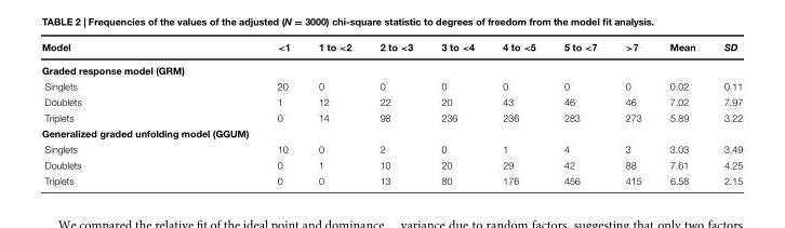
<table><thead><tr><td>Model</td><td>&lt;1</td><td>1 to &lt;2</td><td>2 to &lt;3</td><td>3 to &lt;4</td><td>4 to &lt;5</td><td>5 to &lt;7</td><td>&gt;7</td><td>Mean</td><td>SD</td></tr></thead><tbody><tr><td colspan="10">Graded response model (GRM)</td></tr><tr><td>Singlets</td><td>20</td><td>0</td><td>0</td><td>0</td><td>0</td><td>0</td><td>0</td><td>0.02</td><td>0.11</td></tr><tr><td>Doublets</td><td>1</td><td>12</td><td>22</td><td>20</td><td>43</td><td>46</td><td>46</td><td>7.02</td><td>7.97</td></tr><tr><td>Triplets</td><td>0</td><td>14</td><td>98</td><td>236</td><td>236</td><td>283</td><td>273</td><td>5.89</td><td>3.22</td></tr><tr><td colspan="10">Generalized graded unfolding model (GGUM)</td></tr><tr><td>Singlets</td><td>10</td><td>0</td><td>2</td><td>0</td><td>1</td><td>4</td><td>3</td><td>3.03</td><td>3.49</td></tr><tr><td>Doublets</td><td>0</td><td>1</td><td>10</td><td>20</td><td>29</td><td>42</td><td>88</td><td>7.61</td><td>4.25</td></tr><tr><td>Triplets</td><td>0</td><td>0</td><td>13</td><td>80</td><td>176</td><td>456</td><td>415</td><td>6.58</td><td>2.15</td></tr></tbody></table>